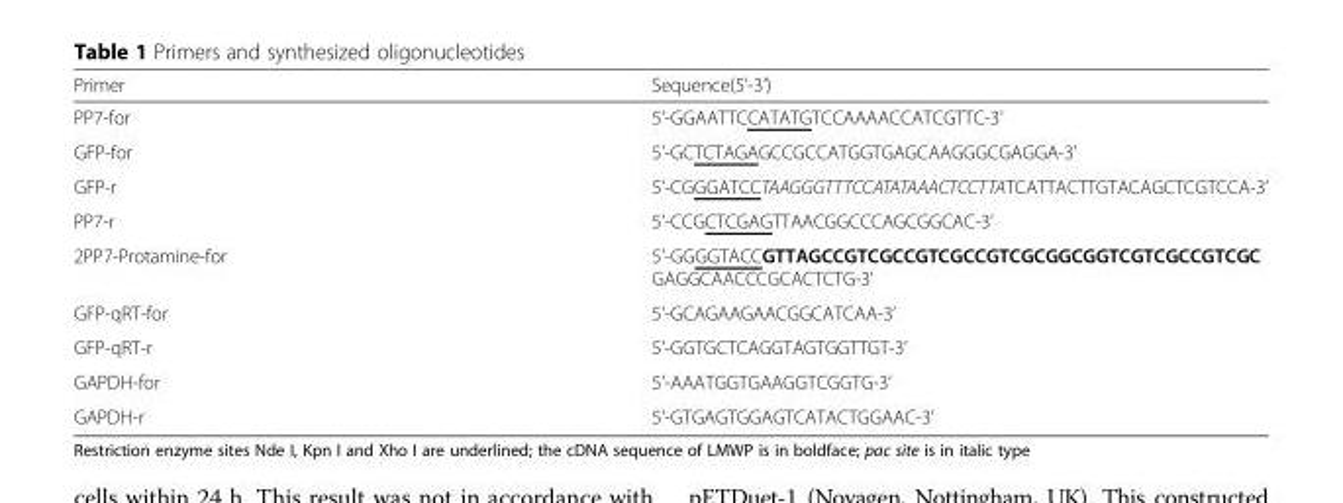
<table><thead><tr><td>Primer</td><td>Sequence(5’-3’)</td></tr></thead><tbody><tr><td>PP7-for</td><td>5’-GGAATTCCATATGTCCAAAACCATCGTTC-3’</td></tr><tr><td>GFP-for</td><td>5’-GCTCTAGAGCCGCCATGGTGAGCAAGGGCGAGGA-3’</td></tr><tr><td>GFP-r</td><td>5’-CGGGATCCTAAGGGTTTCCATATAAACTCCTTATCATTACTTGTACAGCTCGTCCA-3’</td></tr><tr><td>PP7-r</td><td>5’-CCGCTCGAGTTAACGGCCCAGCGGCAC-3’</td></tr><tr><td>2PP7-Protamine-for</td><td>5’-GGGGTACCGTTAGCCGTCGCCGTCGCCGTCGCGGCGGTCGTCGCCGTCGC GAGGCAACCCGCACTCTG-3’</td></tr><tr><td>GFP-qRT-for</td><td>5’-GCAGAAGAACGGCATCAA-3’</td></tr><tr><td>GFP-qRT-r</td><td>5’-GGTGCTCAGGTAGTGGTTGT-3’</td></tr><tr><td>GAPDH-for</td><td>5’-AAATGGTGAAGGTCGGTG-3’</td></tr><tr><td>GAPDH-r</td><td>5’-GTGAGTGGAGTCATACTGGAAC-3’</td></tr></tbody></table>